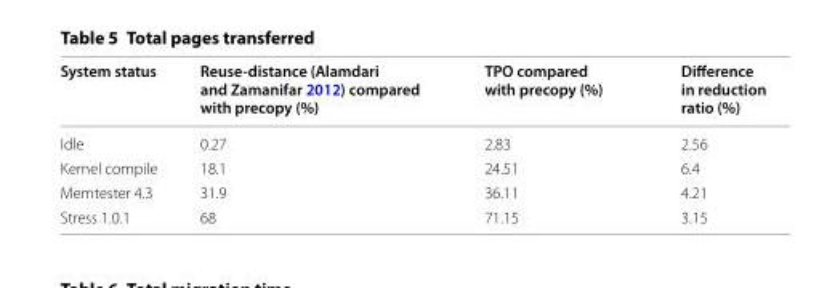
<table><thead><tr><td>System status</td><td>Reuse‑distance (Alamdari and Zamanifar 2012) compared with precopy (%)</td><td>TPO compared with precopy (%)</td><td>Difference in reduction ratio (%)</td></tr></thead><tbody><tr><td>Idle</td><td>0.27</td><td>2.83</td><td>2.56</td></tr><tr><td>Kernel compile</td><td>18.1</td><td>24.51</td><td>6.4</td></tr><tr><td>Memtester 4.3</td><td>31.9</td><td>36.11</td><td>4.21</td></tr><tr><td>Stress 1.0.1</td><td>68</td><td>71.15</td><td>3.15</td></tr></tbody></table>